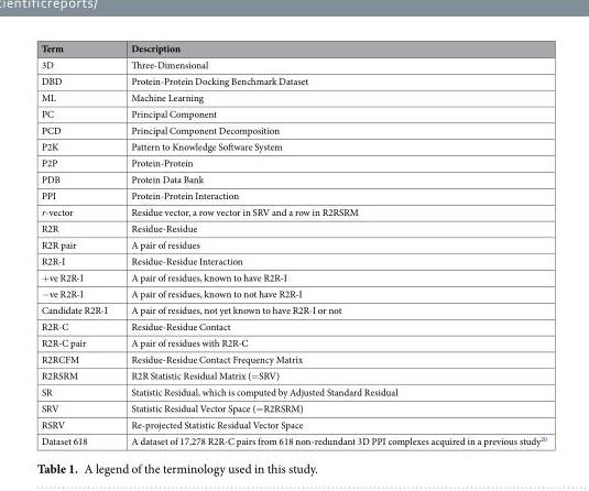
<table><thead><tr><td>Term</td><td>Description</td></tr></thead><tbody><tr><td>3D</td><td>Three-Dimensional</td></tr><tr><td>DBD</td><td>Protein-Protein Docking Benchmark Dataset</td></tr><tr><td>ML</td><td>Machine Learning</td></tr><tr><td>PC</td><td>Principal Component</td></tr><tr><td>PCD</td><td>Principal Component Decomposition</td></tr><tr><td>P2K</td><td>Pattern to Knowledge Software System</td></tr><tr><td>P2P</td><td>Protein-Protein</td></tr><tr><td>PDB</td><td>Protein Data Bank</td></tr><tr><td>PPI</td><td>Protein-Protein Interaction</td></tr><tr><td>r-vector</td><td>Residue vector, a row vector in SRV and a row in R2RSRM</td></tr><tr><td>R2R</td><td>Residue-Residue</td></tr><tr><td>R2R pair</td><td>A pair of residues</td></tr><tr><td>R2R-I</td><td>Residue-Residue Interaction</td></tr><tr><td>+ve R2R-I</td><td>A pair of residues, known to have R2R-I</td></tr><tr><td>−ve R2R-I</td><td>A pair of residues, known to not have R2R-I</td></tr><tr><td>Candidate R2R-I</td><td>A pair of residues, not yet known to have R2R-I or not</td></tr><tr><td>R2R-C</td><td>Residue-Residue Contact</td></tr><tr><td>R2R-C pair</td><td>A pair of residues with R2R-C</td></tr><tr><td>R2RCFM</td><td>Residue-Residue Contact Frequency Matrix</td></tr><tr><td>R2RSRM</td><td>R2R Statistic Residual Matrix (=SRV)</td></tr><tr><td>SR</td><td>Statistic Residual, which is computed by Adjusted Standard Residual</td></tr><tr><td>SRV</td><td>Statistic Residual Vector Space (=R2RSRM)</td></tr><tr><td>RSRV</td><td>Re-projected Statistic Residual Vector Space</td></tr><tr><td>Dataset 618</td><td>A dataset of 17,278 R2R-C pairs from 618 non-redundant 3D PPI complexes acquired in a previous study<sup>20</sup></td></tr></tbody></table>